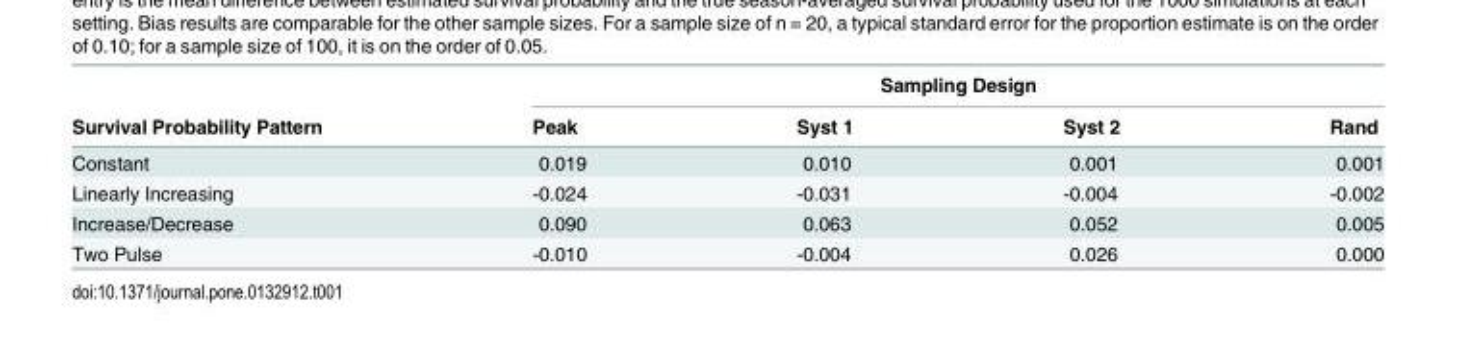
<table><thead><tr><td rowspan="2">Survival Probability Pattern</td><td colspan="4">Sampling Design</td></tr><tr><td>Peak</td><td>Syst 1</td><td>Syst 2</td><td>Rand</td></tr></thead><tbody><tr><td>Constant</td><td>0.019</td><td>0.010</td><td>0.001</td><td>0.001</td></tr><tr><td>Linearly Increasing</td><td>-0.024</td><td>-0.031</td><td>-0.004</td><td>-0.002</td></tr><tr><td>Increase/Decrease</td><td>0.090</td><td>0.063</td><td>0.052</td><td>0.005</td></tr><tr><td>Two Pulse</td><td>-0.010</td><td>-0.004</td><td>0.026</td><td>0.000</td></tr></tbody></table>